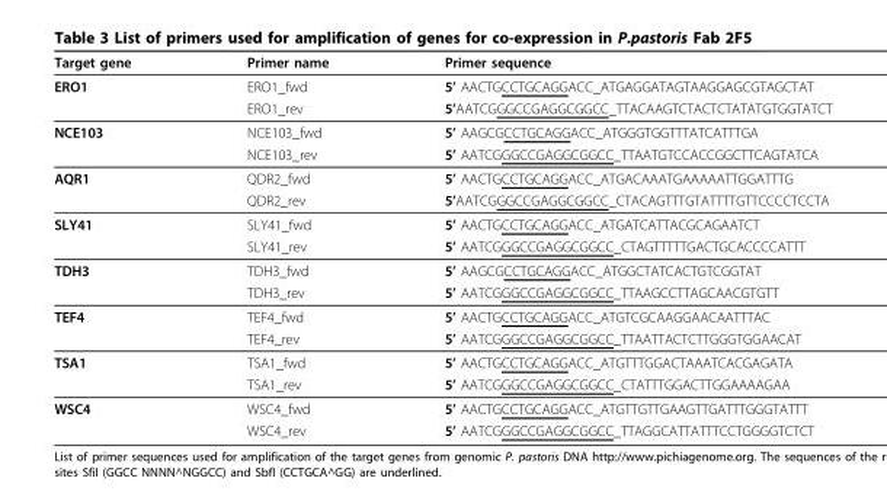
<table><thead><tr><td>Target gene</td><td>Primer name</td><td>Primer sequence</td></tr></thead><tbody><tr><td rowspan="2">ERO1</td><td>ERO1_fwd</td><td>5’ AACTGCCTGCAGGACC_ATGAGGATAGTAAGGAGCGTAGCTAT</td></tr><tr><td>ERO1_rev</td><td>5’AATCGGGCCGAGGCGGCC_TTACAAGTCTACTCTATATGTGGTATCT</td></tr><tr><td rowspan="2">NCE103</td><td>NCE103_fwd</td><td>5’ AAGCGCCTGCAGGACC_ATGGGTGGTTTATCATTTGA</td></tr><tr><td>NCE103_rev</td><td>5’ AATCGGGCCGAGGCGGCC_TTAATGTCCACCGGCTTCAGTATCA</td></tr><tr><td rowspan="2">AQR1</td><td>QDR2_fwd</td><td>5’ AACTGCCTGCAGGACC_ATGACAAATGAAAAATTGGATTTG</td></tr><tr><td>QDR2_rev</td><td>5’AATCGGGCCGAGGCGGCC_CTACAGTTTGTATTTTGTTCCCCTCCTA</td></tr><tr><td rowspan="2">SLY41</td><td>SLY41_fwd</td><td>5’ AACTGCCTGCAGGACC_ATGATCATTACGCAGAATCT</td></tr><tr><td>SLY41_rev</td><td>5’ AATCGGGCCGAGGCGGCC_CTAGTTTTTGACTGCACCCCATTT</td></tr><tr><td rowspan="2">TDH3</td><td>TDH3_fwd</td><td>5’ AAGCGCCTGCAGGACC_ATGGCTATCACTGTCGGTAT</td></tr><tr><td>TDH3_rev</td><td>5’ AATCGGGCCGAGGCGGCC_TTAAGCCTTAGCAACGTGTT</td></tr><tr><td rowspan="2">TEF4</td><td>TEF4_fwd</td><td>5’ AACTGCCTGCAGGACC_ATGTCGCAAGGAACAATTTAC</td></tr><tr><td>TEF4_rev</td><td>5’ AATCGGGCCGAGGCGGCC_TTAATTACTCTTGGGTGGAACAT</td></tr><tr><td rowspan="2">TSA1</td><td>TSA1_fwd</td><td>5’ AACTGCCTGCAGGACC_ATGTTTGGACTAAATCACGAGATA</td></tr><tr><td>TSA1_rev</td><td>5’ AATCGGGCCGAGGCGGCC_CTATTTGGACTTGGAAAAGAA</td></tr><tr><td rowspan="2">WSC4</td><td>WSC4_fwd</td><td>5’ AACTGCCTGCAGGACC_ATGTTGTTGAAGTTGATTTGGGTATTT</td></tr><tr><td>WSC4_rev</td><td>5’ AATCGGGCCGAGGCGGCC_TTAGGCATTATTTCCTGGGGTCTCT</td></tr></tbody></table>